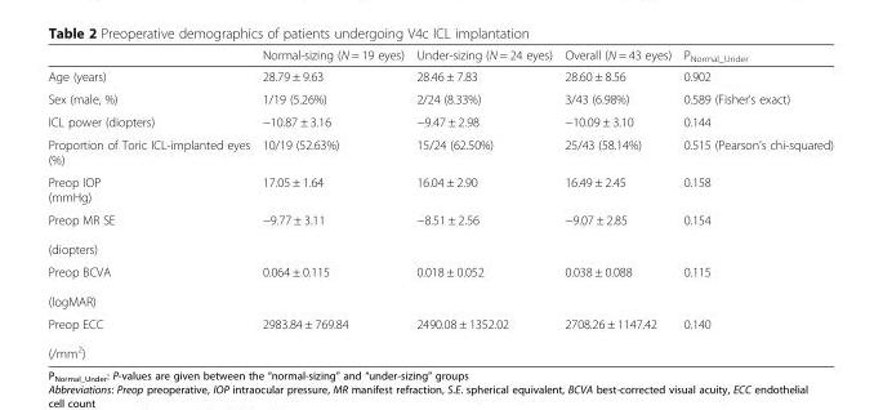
<table><thead><tr><td></td><td>Normal-sizing (N = 19 eyes)</td><td>Under-sizing (N = 24 eyes)</td><td>Overall (N = 43 eyes)</td><td>P<sub>Normal_Under</sub></td></tr></thead><tbody><tr><td>Age (years)</td><td>28.79 ± 9.63</td><td>28.46 ± 7.83</td><td>28.60 ± 8.56</td><td>0.902</td></tr><tr><td>Sex (male, %)</td><td>1/19 (5.26%)</td><td>2/24 (8.33%)</td><td>3/43 (6.98%)</td><td>0.589 (Fisher’s exact)</td></tr><tr><td>ICL power (diopters)</td><td>−10.87 ± 3.16</td><td>−9.47 ± 2.98</td><td>−10.09 ± 3.10</td><td>0.144</td></tr><tr><td>Proportion of Toric ICL-implanted eyes (%)</td><td>10/19 (52.63%)</td><td>15/24 (62.50%)</td><td>25/43 (58.14%)</td><td>0.515 (Pearson’s chi-squared)</td></tr><tr><td>Preop IOP (mmHg)</td><td>17.05 ± 1.64</td><td>16.04 ± 2.90</td><td>16.49 ± 2.45</td><td>0.158</td></tr><tr><td>Preop MR SE (diopters)</td><td>−9.77 ± 3.11</td><td>−8.51 ± 2.56</td><td>−9.07 ± 2.85</td><td>0.154</td></tr><tr><td>Preop BCVA (logMAR)</td><td>0.064 ± 0.115</td><td>0.018 ± 0.052</td><td>0.038 ± 0.088</td><td>0.115</td></tr><tr><td>Preop ECC (/mm<sup>2</sup>)</td><td>2983.84 ± 769.84</td><td>2490.08 ± 1352.02</td><td>2708.26 ± 1147.42</td><td>0.140</td></tr></tbody></table>